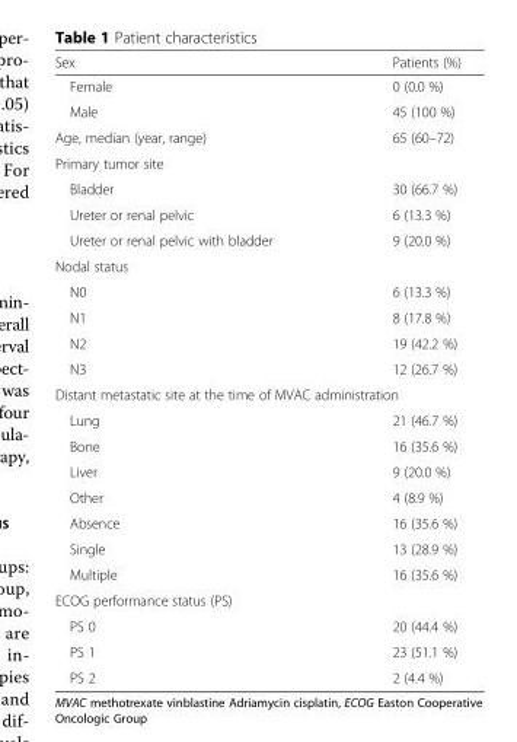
<table><thead><tr><td>Sex</td><td>Patients (%)</td></tr></thead><tbody><tr><td>Female</td><td>0 (0.0 %)</td></tr><tr><td>Male</td><td>45 (100 %)</td></tr><tr><td>Age, median (year, range)</td><td>65 (60–72)</td></tr><tr><td colspan="2">Primary tumor site</td></tr><tr><td>Bladder</td><td>30 (66.7 %)</td></tr><tr><td>Ureter or renal pelvic</td><td>6 (13.3 %)</td></tr><tr><td>Ureter or renal pelvic with bladder</td><td>9 (20.0 %)</td></tr><tr><td colspan="2">Nodal status</td></tr><tr><td>N0</td><td>6 (13.3 %)</td></tr><tr><td>N1</td><td>8 (17.8 %)</td></tr><tr><td>N2</td><td>19 (42.2 %)</td></tr><tr><td>N3</td><td>12 (26.7 %)</td></tr><tr><td colspan="2">Distant metastatic site at the time of MVAC administration</td></tr><tr><td>Lung</td><td>21 (46.7 %)</td></tr><tr><td>Bone</td><td>16 (35.6 %)</td></tr><tr><td>Liver</td><td>9 (20.0 %)</td></tr><tr><td>Other</td><td>4 (8.9 %)</td></tr><tr><td>Absence</td><td>16 (35.6 %)</td></tr><tr><td>Single</td><td>13 (28.9 %)</td></tr><tr><td>Multiple</td><td>16 (35.6 %)</td></tr><tr><td colspan="2">ECOG performance status (PS)</td></tr><tr><td>PS 0</td><td>20 (44.4 %)</td></tr><tr><td>PS 1</td><td>23 (51.1 %)</td></tr><tr><td>PS 2</td><td>2 (4.4 %)</td></tr></tbody></table>